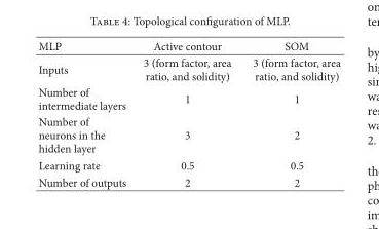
<table><thead><tr><td>MLP</td><td>Active contour</td><td>SOM</td></tr></thead><tbody><tr><td>Inputs</td><td>3 (form factor, area ratio, and solidity)</td><td>3 (form factor, area ratio, and solidity)</td></tr><tr><td>Number of intermediate layers</td><td>1</td><td>1</td></tr><tr><td>Number of neurons in the hidden layer</td><td>3</td><td>2</td></tr><tr><td>Learning rate</td><td>0.5</td><td>0.5</td></tr><tr><td>Number of outputs</td><td>2</td><td>2</td></tr></tbody></table>